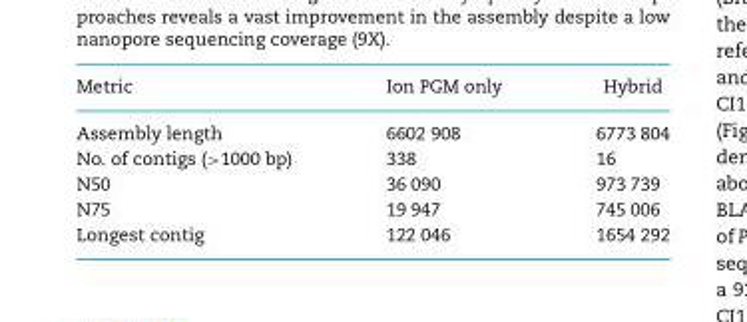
<table><thead><tr><td>Metric</td><td>Ion PGM only</td><td>Hybrid</td></tr></thead><tbody><tr><td>Assembly length</td><td>6602 908</td><td>6773 804</td></tr><tr><td>No. of contigs (&gt;1000 bp)</td><td>338</td><td>16</td></tr><tr><td>N50</td><td>36 090</td><td>973 739</td></tr><tr><td>N75</td><td>19 947</td><td>745 006</td></tr><tr><td>Longest contig</td><td>122 046</td><td>1654 292</td></tr></tbody></table>